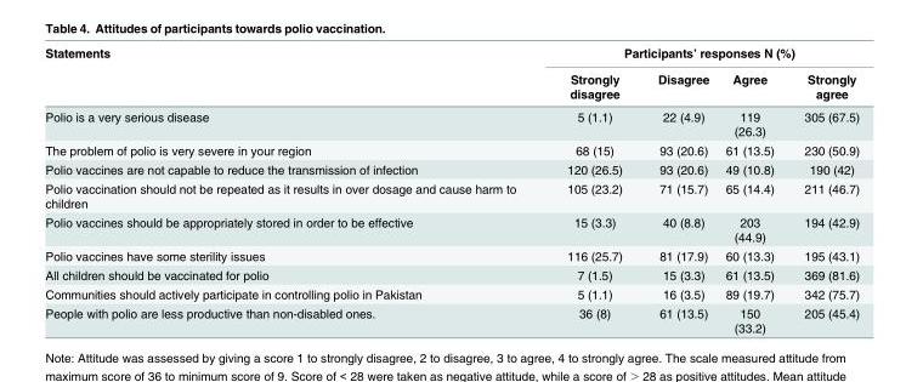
<table><thead><tr><td rowspan="2">Statements</td><td colspan="4">Participants’ responses N (%)</td></tr><tr><td>Strongly disagree</td><td>Disagree</td><td>Agree</td><td>Strongly agree</td></tr></thead><tbody><tr><td>Polio is a very serious disease</td><td>5 (1.1)</td><td>22 (4.9)</td><td>119 (26.3)</td><td>305 (67.5)</td></tr><tr><td>The problem of polio is very severe in your region</td><td>68 (15)</td><td>93 (20.6)</td><td>61 (13.5)</td><td>230 (50.9)</td></tr><tr><td>Polio vaccines are not capable to reduce the transmission of infection</td><td>120 (26.5)</td><td>93 (20.6)</td><td>49 (10.8)</td><td>190 (42)</td></tr><tr><td>Polio vaccination should not be repeated as it results in over dosage and cause harm to children</td><td>105 (23.2)</td><td>71 (15.7)</td><td>65 (14.4)</td><td>211 (46.7)</td></tr><tr><td>Polio vaccines should be appropriately stored in order to be effective</td><td>15 (3.3)</td><td>40 (8.8)</td><td>203 (44.9)</td><td>194 (42.9)</td></tr><tr><td>Polio vaccines have some sterility issues</td><td>116 (25.7)</td><td>81 (17.9)</td><td>60 (13.3)</td><td>195 (43.1)</td></tr><tr><td>All children should be vaccinated for polio</td><td>7 (1.5)</td><td>15 (3.3)</td><td>61 (13.5)</td><td>369 (81.6)</td></tr><tr><td>Communities should actively participate in controlling polio in Pakistan</td><td>5 (1.1)</td><td>16 (3.5)</td><td>89 (19.7)</td><td>342 (75.7)</td></tr><tr><td>People with polio are less productive than non-disabled ones.</td><td>36 (8)</td><td>61 (13.5)</td><td>150 (33.2)</td><td>205 (45.4)</td></tr></tbody></table>